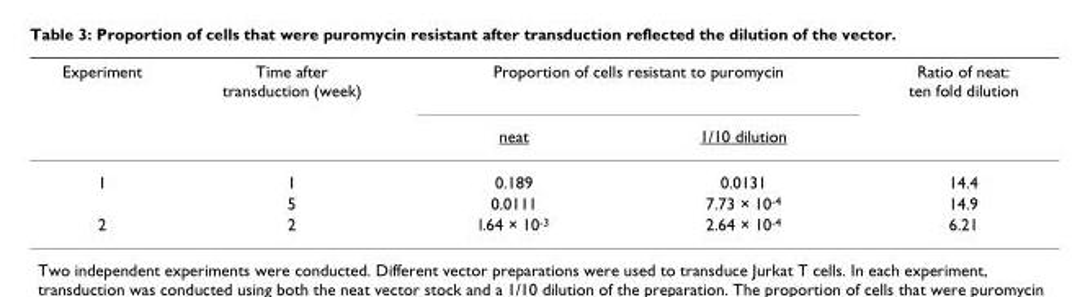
<table><thead><tr><td rowspan="2">Experiment</td><td rowspan="2">Time after transduction (week)</td><td colspan="2">Proportion of cells resistant to puromycin</td><td rowspan="2">Ratio of neat: ten fold dilution</td></tr><tr><td>neat</td><td>1/10 dilution</td></tr></thead><tbody><tr><td rowspan="2">1</td><td>1</td><td>0.189</td><td>0.0131</td><td>14.4</td></tr><tr><td>5</td><td>0.0111</td><td>7.73 × 10<sup>-4</sup></td><td>14.9</td></tr><tr><td>2</td><td>2</td><td>l.64 × 10<sup>-3</sup></td><td>2.64 × 10<sup>-4</sup></td><td>6.21</td></tr></tbody></table>